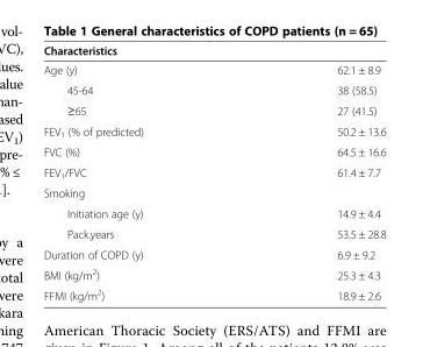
<table><thead><tr><td>Characteristics</td><td></td></tr></thead><tbody><tr><td>Age (y)</td><td>62.1 ± 8.9</td></tr><tr><td>45-64</td><td>38 (58.5)</td></tr><tr><td>≥65</td><td>27 (41.5)</td></tr><tr><td>FEV<sub>1</sub> (% of predicted)</td><td>50.2 ± 13.6</td></tr><tr><td>FVC (%)</td><td>64.5 ± 16.6</td></tr><tr><td>FEV<sub>1</sub>/FVC</td><td>61.4 ± 7.7</td></tr><tr><td colspan="2">Smoking</td></tr><tr><td>Initiation age (y)</td><td>14.9 ± 4.4</td></tr><tr><td>Pack.years</td><td>53.5 ± 28.8</td></tr><tr><td>Duration of COPD (y)</td><td>6.9 ± 9.2</td></tr><tr><td>BMI (kg/m<sup>2</sup>)</td><td>25.3 ± 4.3</td></tr><tr><td>FFMI (kg/m<sup>2</sup>)</td><td>18.9 ± 2.6</td></tr></tbody></table>